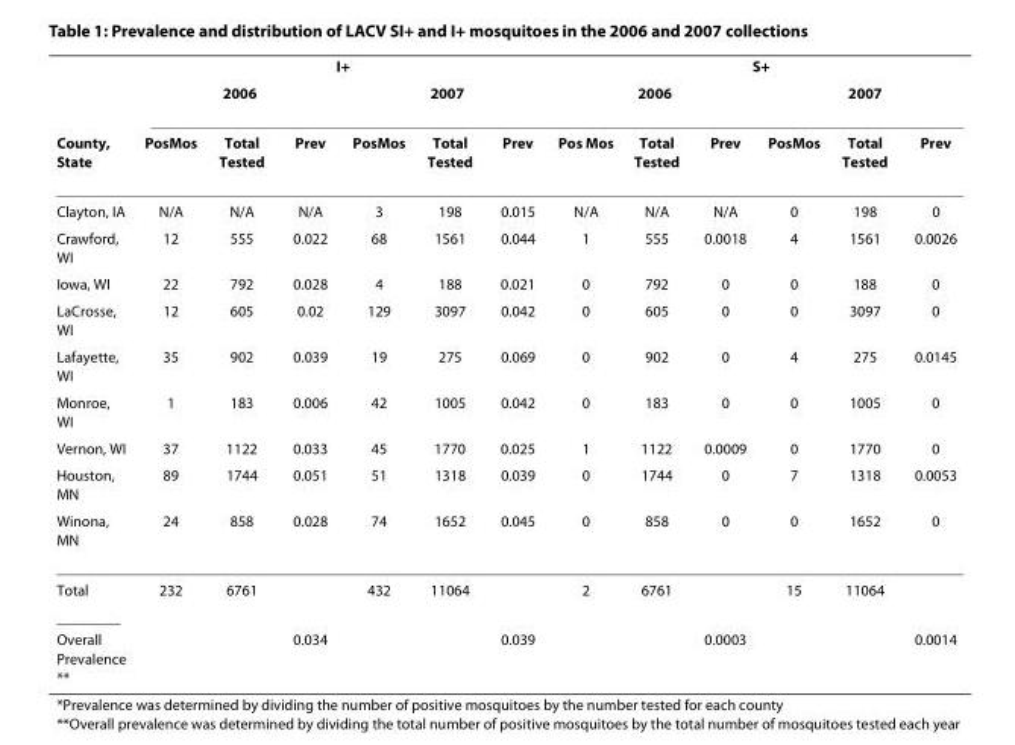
<table><thead><tr><td rowspan="3">County, State</td><td colspan="6">I+</td><td colspan="6">S+</td></tr><tr><td colspan="3">2006</td><td colspan="3">2007</td><td colspan="3">2006</td><td colspan="3">2007</td></tr><tr><td>PosMos</td><td>Total Tested</td><td>Prev</td><td>PosMos</td><td>Total Tested</td><td>Prev</td><td>Pos Mos</td><td>Total Tested</td><td>Prev</td><td>PosMos</td><td>Total Tested</td><td>Prev</td></tr></thead><tbody><tr><td>Clayton, IA</td><td>N/A</td><td>N/A</td><td>N/A</td><td>3</td><td>198</td><td>0.015</td><td>N/A</td><td>N/A</td><td>N/A</td><td>0</td><td>198</td><td>0</td></tr><tr><td>Crawford, WI</td><td>12</td><td>555</td><td>0.022</td><td>68</td><td>1561</td><td>0.044</td><td>1</td><td>555</td><td>0.0018</td><td>4</td><td>1561</td><td>0.0026</td></tr><tr><td>Iowa, WI</td><td>22</td><td>792</td><td>0.028</td><td>4</td><td>188</td><td>0.021</td><td>0</td><td>792</td><td>0</td><td>0</td><td>188</td><td>0</td></tr><tr><td>LaCrosse, WI</td><td>12</td><td>605</td><td>0.02</td><td>129</td><td>3097</td><td>0.042</td><td>0</td><td>605</td><td>0</td><td>0</td><td>3097</td><td>0</td></tr><tr><td>Lafayette, WI</td><td>35</td><td>902</td><td>0.039</td><td>19</td><td>275</td><td>0.069</td><td>0</td><td>902</td><td>0</td><td>4</td><td>275</td><td>0.0145</td></tr><tr><td>Monroe, WI</td><td>1</td><td>183</td><td>0.006</td><td>42</td><td>1005</td><td>0.042</td><td>0</td><td>183</td><td>0</td><td>0</td><td>1005</td><td>0</td></tr><tr><td>Vernon, WI</td><td>37</td><td>1122</td><td>0.033</td><td>45</td><td>1770</td><td>0.025</td><td>1</td><td>1122</td><td>0.0009</td><td>0</td><td>1770</td><td>0</td></tr><tr><td>Houston, MN</td><td>89</td><td>1744</td><td>0.051</td><td>51</td><td>1318</td><td>0.039</td><td>0</td><td>1744</td><td>0</td><td>7</td><td>1318</td><td>0.0053</td></tr><tr><td>Winona, MN</td><td>24</td><td>858</td><td>0.028</td><td>74</td><td>1652</td><td>0.045</td><td>0</td><td>858</td><td>0</td><td>0</td><td>1652</td><td>0</td></tr><tr><td>Total</td><td>232</td><td>6761</td><td></td><td>432</td><td>11064</td><td></td><td>2</td><td>6761</td><td></td><td>15</td><td>11064</td><td></td></tr><tr><td>Overall Prevalence **</td><td></td><td></td><td>0.034</td><td></td><td></td><td>0.039</td><td></td><td></td><td>0.0003</td><td></td><td></td><td>0.0014</td></tr></tbody></table>